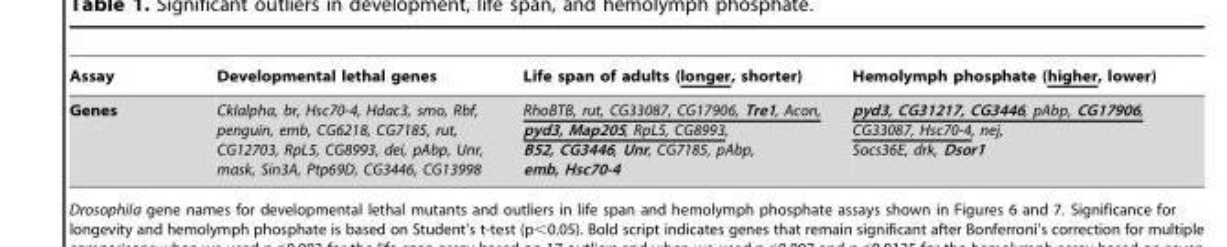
<table><thead><tr><td>Assay</td><td>Developmental lethal genes</td><td>Life span of adults (longer, shorter)</td><td>Hemolymph phosphate (higher, lower)</td></tr></thead><tbody><tr><td>Genes</td><td>CkIalpha, br, Hsc70-4, Hdac3, smo, Rbf, penguin, emb, CG6218, CG7185, rut, CG12703, RpL5, CG8993, dei, pAbp, Unr, mask, Sin3A, Ptp69D, CG3446, CG13998</td><td>RhoBTB, rut, CG33087, CG17906, Tre1, Acon, pyd3, Map205, RpL5, CG8993, B52, CG3446, Unr, CG7185, pAbp, emb, Hsc70-4</td><td>pyd3, CG31217, CG3446, pAbp, CG17906, CG33087, Hsc70-4, nej, Socs36E, drk, Dsor1</td></tr></tbody></table>